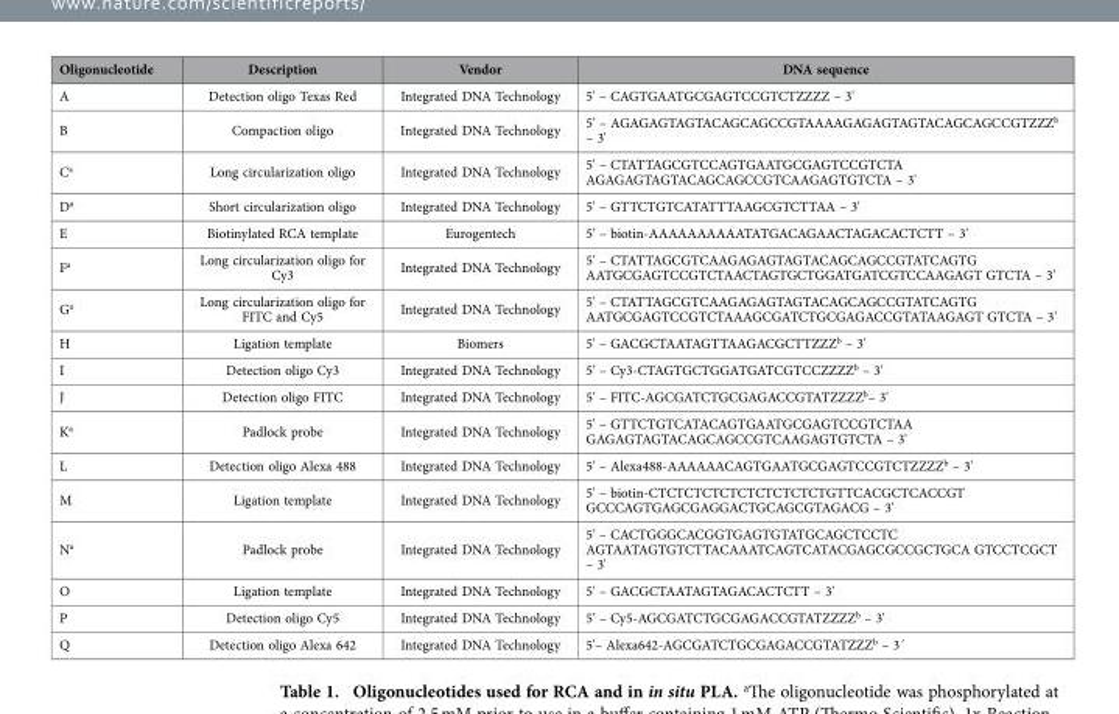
<table><thead><tr><td>Oligonucleotide</td><td>Description</td><td>Vendor</td><td>DNA sequence</td></tr></thead><tbody><tr><td>A</td><td>Detection oligo Texas Red</td><td>Integrated DNA Technology</td><td>5&#x27; – CAGTGAATGCGAGTCCGTCTZZZZ – 3&#x27;</td></tr><tr><td>B</td><td>Compaction oligo</td><td>Integrated DNA Technology</td><td>5&#x27; – AGAGAGTAGTACAGCAGCCGTAAAAGAGAGTAGTACAGCAGCCGTZZZ<sup>b</sup> – 3&#x27;</td></tr><tr><td>C<sup>a</sup></td><td>Long circularization oligo</td><td>Integrated DNA Technology</td><td>5&#x27; – CTATTAGCGTCCAGTGAATGCGAGTCCGTCTA AGAGAGTAGTACAGCAGCCGTCAAGAGTGTCTA – 3&#x27;</td></tr><tr><td>D<sup>a</sup></td><td>Short circularization oligo</td><td>Integrated DNA Technology</td><td>5&#x27; – GTTCTGTCATATTTAAGCGTCTTAA – 3&#x27;</td></tr><tr><td>E</td><td>Biotinylated RCA template</td><td>Eurogentech</td><td>5&#x27; – biotin-AAAAAAAAAATATGACAGAACTAGACACTCTT – 3&#x27;</td></tr><tr><td>F<sup>a</sup></td><td>Long circularization oligo for Cy3</td><td>Integrated DNA Technology</td><td>5&#x27; – CTATTAGCGTCAAGAGAGTAGTACAGCAGCCGTATCAGTG AATGCGAGTCCGTCTAACTAGTGCTGGATGATCGTCCAAGAGT GTCTA – 3&#x27;</td></tr><tr><td>G<sup>a</sup></td><td>Long circularization oligo for FITC and Cy5</td><td>Integrated DNA Technology</td><td>5&#x27; – CTATTAGCGTCAAGAGAGTAGTACAGCAGCCGTATCAGTG AATGCGAGTCCGTCTAAAGCGATCTGCGAGACCGTATAAGAGT GTCTA – 3&#x27;</td></tr><tr><td>H</td><td>Ligation template</td><td>Biomers</td><td>5&#x27; – GACGCTAATAGTTAAGACGCTTZZZ<sup>b</sup> – 3&#x27;</td></tr><tr><td>I</td><td>Detection oligo Cy3</td><td>Integrated DNA Technology</td><td>5&#x27; – Cy3-CTAGTGCTGGATGATCGTCCZZZZ<sup>b</sup> – 3&#x27;</td></tr><tr><td>J</td><td>Detection oligo FITC</td><td>Integrated DNA Technology</td><td>5&#x27; – FITC-AGCGATCTGCGAGACCGTATZZZZ<sup>b</sup>– 3&#x27;</td></tr><tr><td>K<sup>a</sup></td><td>Padlock probe</td><td>Integrated DNA Technology</td><td>5&#x27; – GTTCTGTCATACAGTGAATGCGAGTCCGTCTAA GAGAGTAGTACAGCAGCCGTCAAGAGTGTCTA – 3&#x27;</td></tr><tr><td>L</td><td>Detection oligo Alexa 488</td><td>Integrated DNA Technology</td><td>5&#x27; – Alexa488-AAAAAACAGTGAATGCGAGTCCGTCTZZZZ<sup>b</sup> – 3&#x27;</td></tr><tr><td>M</td><td>Ligation template</td><td>Integrated DNA Technology</td><td>5&#x27; – biotin-CTCTCTCTCTCTCTCTCTCTGTTCACGCTCACCGT GCCCAGTGAGCGAGGACTGCAGCGTAGACG – 3&#x27;</td></tr><tr><td>N<sup>a</sup></td><td>Padlock probe</td><td>Integrated DNA Technology</td><td>5&#x27; – CACTGGGCACGGTGAGTGTATGCAGCTCCTC AGTAATAGTGTCTTACAAATCAGTCATACGAGCGCCGCTGCA GTCCTCGCT – 3&#x27;</td></tr><tr><td>O</td><td>Ligation template</td><td>Integrated DNA Technology</td><td>5&#x27; – GACGCTAATAGTAGACACTCTT – 3&#x27;</td></tr><tr><td>P</td><td>Detection oligo Cy5</td><td>Integrated DNA Technology</td><td>5&#x27; – Cy5-AGCGATCTGCGAGACCGTATZZZZ<sup>b</sup> – 3&#x27;</td></tr><tr><td>Q</td><td>Detection oligo Alexa 642</td><td>Integrated DNA Technology</td><td>5&#x27;– Alexa642-AGCGATCTGCGAGACCGTATZZZ<sup>b</sup> – 3´</td></tr></tbody></table>